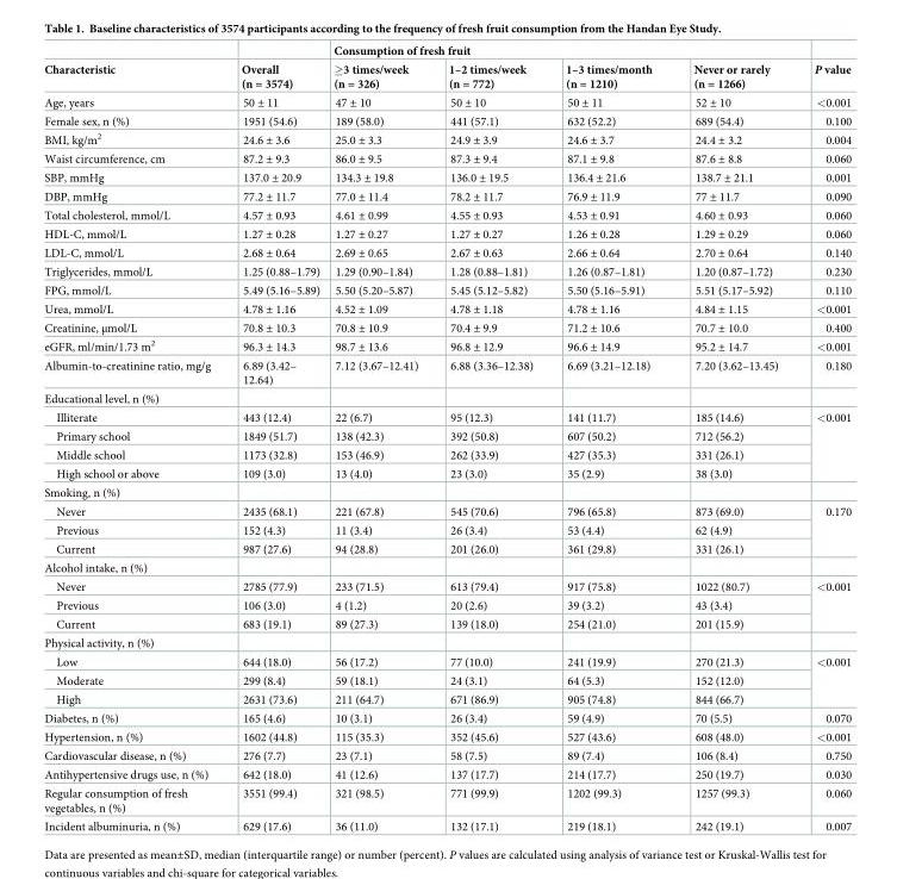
<table><thead><tr><td rowspan="2">Characteristic</td><td rowspan="2">Overall (n = 3574)</td><td colspan="4">Consumption of fresh fruit</td><td rowspan="2">P value</td></tr><tr><td>≥3 times/week (n = 326)</td><td>1–2 times/week (n = 772)</td><td>1–3 times/month (n = 1210)</td><td>Never or rarely (n = 1266)</td></tr></thead><tbody><tr><td>Age, years</td><td>50 ± 11</td><td>47 ± 10</td><td>50 ± 10</td><td>50 ± 11</td><td>52 ± 10</td><td>&lt;0.001</td></tr><tr><td>Female sex, n (%)</td><td>1951 (54.6)</td><td>189 (58.0)</td><td>441 (57.1)</td><td>632 (52.2)</td><td>689 (54.4)</td><td>0.100</td></tr><tr><td>BMI, kg/m<sup>2</sup></td><td>24.6 ± 3.6</td><td>25.0 ± 3.3</td><td>24.9 ± 3.9</td><td>24.6 ± 3.7</td><td>24.4 ± 3.2</td><td>0.004</td></tr><tr><td>Waist circumference, cm</td><td>87.2 ± 9.3</td><td>86.0 ± 9.5</td><td>87.3 ± 9.4</td><td>87.1 ± 9.8</td><td>87.6 ± 8.8</td><td>0.060</td></tr><tr><td>SBP, mmHg</td><td>137.0 ± 20.9</td><td>134.3 ± 19.8</td><td>136.0 ± 19.5</td><td>136.4 ± 21.6</td><td>138.7 ± 21.1</td><td>0.001</td></tr><tr><td>DBP, mmHg</td><td>77.2 ± 11.7</td><td>77.0 ± 11.4</td><td>78.2 ± 11.7</td><td>76.9 ± 11.9</td><td>77 ± 11.7</td><td>0.090</td></tr><tr><td>Total cholesterol, mmol/L</td><td>4.57 ± 0.93</td><td>4.61 ± 0.99</td><td>4.55 ± 0.93</td><td>4.53 ± 0.91</td><td>4.60 ± 0.93</td><td>0.060</td></tr><tr><td>HDL-C, mmol/L</td><td>1.27 ± 0.28</td><td>1.27 ± 0.27</td><td>1.27 ± 0.27</td><td>1.26 ± 0.28</td><td>1.29 ± 0.29</td><td>0.060</td></tr><tr><td>LDL-C, mmol/L</td><td>2.68 ± 0.64</td><td>2.69 ± 0.65</td><td>2.67 ± 0.63</td><td>2.66 ± 0.64</td><td>2.70 ± 0.64</td><td>0.140</td></tr><tr><td>Triglycerides, mmol/L</td><td>1.25 (0.88–1.79)</td><td>1.29 (0.90–1.84)</td><td>1.28 (0.88–1.81)</td><td>1.26 (0.87–1.81)</td><td>1.20 (0.87–1.72)</td><td>0.230</td></tr><tr><td>FPG, mmol/L</td><td>5.49 (5.16–5.89)</td><td>5.50 (5.20–5.87)</td><td>5.45 (5.12–5.82)</td><td>5.50 (5.16–5.91)</td><td>5.51 (5.17–5.92)</td><td>0.110</td></tr><tr><td>Urea, mmol/L</td><td>4.78 ± 1.16</td><td>4.52 ± 1.09</td><td>4.78 ± 1.18</td><td>4.78 ± 1.16</td><td>4.84 ± 1.15</td><td>&lt;0.001</td></tr><tr><td>Creatinine, μmol/L</td><td>70.8 ± 10.3</td><td>70.8 ± 10.9</td><td>70.4 ± 9.9</td><td>71.2 ± 10.6</td><td>70.7 ± 10.0</td><td>0.400</td></tr><tr><td>eGFR, ml/min/1.73 m<sup>2</sup></td><td>96.3 ± 14.3</td><td>98.7 ± 13.6</td><td>96.8 ± 12.9</td><td>96.6 ± 14.9</td><td>95.2 ± 14.7</td><td>&lt;0.001</td></tr><tr><td>Albumin-to-creatinine ratio, mg/g</td><td>6.89 (3.42– 12.64)</td><td>7.12 (3.67–12.41)</td><td>6.88 (3.36–12.38)</td><td>6.69 (3.21–12.18)</td><td>7.20 (3.62–13.45)</td><td>0.180</td></tr><tr><td colspan="7">Educational level, n (%)</td></tr><tr><td>Illiterate</td><td>443 (12.4)</td><td>22 (6.7)</td><td>95 (12.3)</td><td>141 (11.7)</td><td>185 (14.6)</td><td rowspan="4">&lt;0.001</td></tr><tr><td>Primary school</td><td>1849 (51.7)</td><td>138 (42.3)</td><td>392 (50.8)</td><td>607 (50.2)</td><td>712 (56.2)</td></tr><tr><td>Middle school</td><td>1173 (32.8)</td><td>153 (46.9)</td><td>262 (33.9)</td><td>427 (35.3)</td><td>331 (26.1)</td></tr><tr><td>High school or above</td><td>109 (3.0)</td><td>13 (4.0)</td><td>23 (3.0)</td><td>35 (2.9)</td><td>38 (3.0)</td></tr><tr><td colspan="7">Smoking, n (%)</td></tr><tr><td>Never</td><td>2435 (68.1)</td><td>221 (67.8)</td><td>545 (70.6)</td><td>796 (65.8)</td><td>873 (69.0)</td><td rowspan="3">0.170</td></tr><tr><td>Previous</td><td>152 (4.3)</td><td>11 (3.4)</td><td>26 (3.4)</td><td>53 (4.4)</td><td>62 (4.9)</td></tr><tr><td>Current</td><td>987 (27.6)</td><td>94 (28.8)</td><td>201 (26.0)</td><td>361 (29.8)</td><td>331 (26.1)</td></tr><tr><td colspan="7">Alcohol intake, n (%)</td></tr><tr><td>Never</td><td>2785 (77.9)</td><td>233 (71.5)</td><td>613 (79.4)</td><td>917 (75.8)</td><td>1022 (80.7)</td><td rowspan="3">&lt;0.001</td></tr><tr><td>Previous</td><td>106 (3.0)</td><td>4 (1.2)</td><td>20 (2.6)</td><td>39 (3.2)</td><td>43 (3.4)</td></tr><tr><td>Current</td><td>683 (19.1)</td><td>89 (27.3)</td><td>139 (18.0)</td><td>254 (21.0)</td><td>201 (15.9)</td></tr><tr><td colspan="7">Physical activity, n (%)</td></tr><tr><td>Low</td><td>644 (18.0)</td><td>56 (17.2)</td><td>77 (10.0)</td><td>241 (19.9)</td><td>270 (21.3)</td><td rowspan="3">&lt;0.001</td></tr><tr><td>Moderate</td><td>299 (8.4)</td><td>59 (18.1)</td><td>24 (3.1)</td><td>64 (5.3)</td><td>152 (12.0)</td></tr><tr><td>High</td><td>2631 (73.6)</td><td>211 (64.7)</td><td>671 (86.9)</td><td>905 (74.8)</td><td>844 (66.7)</td></tr><tr><td>Diabetes, n (%)</td><td>165 (4.6)</td><td>10 (3.1)</td><td>26 (3.4)</td><td>59 (4.9)</td><td>70 (5.5)</td><td>0.070</td></tr><tr><td>Hypertension, n (%)</td><td>1602 (44.8)</td><td>115 (35.3)</td><td>352 (45.6)</td><td>527 (43.6)</td><td>608 (48.0)</td><td>&lt;0.001</td></tr><tr><td>Cardiovascular disease, n (%)</td><td>276 (7.7)</td><td>23 (7.1)</td><td>58 (7.5)</td><td>89 (7.4)</td><td>106 (8.4)</td><td>0.750</td></tr><tr><td>Antihypertensive drugs use, n (%)</td><td>642 (18.0)</td><td>41 (12.6)</td><td>137 (17.7)</td><td>214 (17.7)</td><td>250 (19.7)</td><td>0.030</td></tr><tr><td>Regular consumption of fresh vegetables, n (%)</td><td>3551 (99.4)</td><td>321 (98.5)</td><td>771 (99.9)</td><td>1202 (99.3)</td><td>1257 (99.3)</td><td>0.060</td></tr><tr><td>Incident albuminuria, n (%)</td><td>629 (17.6)</td><td>36 (11.0)</td><td>132 (17.1)</td><td>219 (18.1)</td><td>242 (19.1)</td><td>0.007</td></tr></tbody></table>